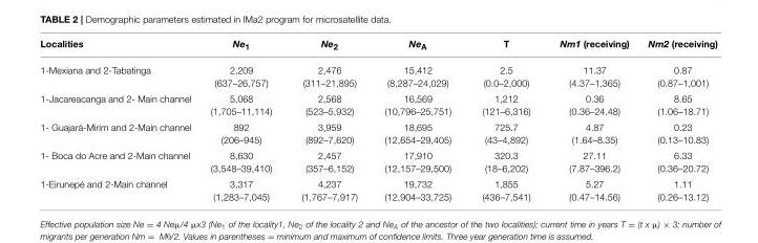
<table><thead><tr><td>Localities</td><td>Ne<sub>1</sub></td><td>Ne<sub>2</sub></td><td>Ne<sub>A</sub></td><td>T</td><td>Nm1 (receiving)</td><td>Nm2 (receiving)</td></tr></thead><tbody><tr><td>1-Mexiana and 2-Tabatinga</td><td>2,209 (637–26,757)</td><td>2,476 (311–21,895)</td><td>15,412 (8,287–24,029)</td><td>2.5 (0.0–2,000)</td><td>11.37 (4.37–1,365)</td><td>0.87 (0.87–1,001)</td></tr><tr><td>1-Jacareacanga and 2- Main channel</td><td>5,068 (1,705–11,114)</td><td>2,568 (523–5,932)</td><td>16,569 (10,796–25,751)</td><td>1,212 (121–6,316)</td><td>0.36 (0.36–24.48)</td><td>8.65 (1.06–18.71)</td></tr><tr><td>1- Guajará-Mirim and 2-Main channel</td><td>892 (206–945)</td><td>3,959 (892–7,620)</td><td>18,695 (12,654–29,405)</td><td>725.7 (43–4,892)</td><td>4.87 (1.64–8.35)</td><td>0.23 (0.13–10.83)</td></tr><tr><td>1- Boca do Acre and 2-Main channel</td><td>8,630 (3,548–39,410)</td><td>2,457 (357–6,152)</td><td>17,910 (12,157–29,500)</td><td>320.3 (18–6,202)</td><td>27.11 (7.87–396.2)</td><td>6.33 (0.36–20.72)</td></tr><tr><td>1-Eirunepé and 2-Main channel</td><td>3,317 (1,283–7,045)</td><td>4,237 (1,767–7,917)</td><td>19,732 (12,904–33,725)</td><td>1,855 (436–7,541)</td><td>5.27 (0.47–14.56)</td><td>1.11 (0.26–13.12)</td></tr></tbody></table>